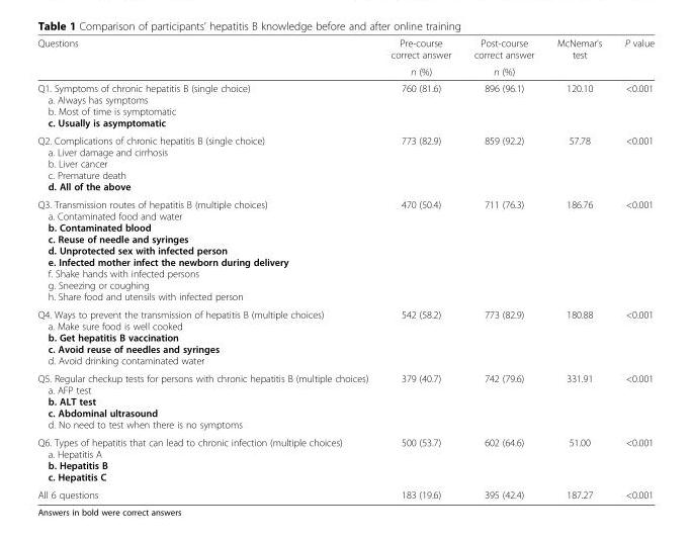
<table><thead><tr><td rowspan="2">Questions</td><td rowspan="2">Pre-course correct answer n (%)</td><td rowspan="2">Post-course correct answer n (%)</td><td rowspan="2">McNemar’s test</td><td rowspan="2">P value</td></tr><tr></tr></thead><tbody><tr><td>Q1. Symptoms of chronic hepatitis B (single choice) a. Always has symptoms b. Most of time is symptomatic c. Usually is asymptomatic</td><td>760 (81.6)</td><td>896 (96.1)</td><td>120.10</td><td>&lt;0.001</td></tr><tr><td>Q2. Complications of chronic hepatitis B (single choice) a. Liver damage and cirrhosis b. Liver cancer c. Premature death d. All of the above</td><td>773 (82.9)</td><td>859 (92.2)</td><td>57.78</td><td>&lt;0.001</td></tr><tr><td>Q3. Transmission routes of hepatitis B (multiple choices) a. Contaminated food and water b. Contaminated blood c. Reuse of needle and syringes d. Unprotected sex with infected person e. Infected mother infect the newborn during delivery f. Shake hands with infected persons g. Sneezing or coughing h. Share food and utensils with infected person</td><td>470 (50.4)</td><td>711 (76.3)</td><td>186.76</td><td>&lt;0.001</td></tr><tr><td>Q4. Ways to prevent the transmission of hepatitis B (multiple choices) a. Make sure food is well cooked b. Get hepatitis B vaccination c. Avoid reuse of needles and syringes d. Avoid drinking contaminated water</td><td>542 (58.2)</td><td>773 (82.9)</td><td>180.88</td><td>&lt;0.001</td></tr><tr><td>Q5. Regular checkup tests for persons with chronic hepatitis B (multiple choices) a. AFP test b. ALT test c. Abdominal ultrasound d. No need to test when there is no symptoms</td><td>379 (40.7)</td><td>742 (79.6)</td><td>331.91</td><td>&lt;0.001</td></tr><tr><td>Q6. Types of hepatitis that can lead to chronic infection (multiple choices) a. Hepatitis A b. Hepatitis B c. Hepatitis C</td><td>500 (53.7)</td><td>602 (64.6)</td><td>51.00</td><td>&lt;0.001</td></tr><tr><td>All 6 questions</td><td>183 (19.6)</td><td>395 (42.4)</td><td>187.27</td><td>&lt;0.001</td></tr></tbody></table>